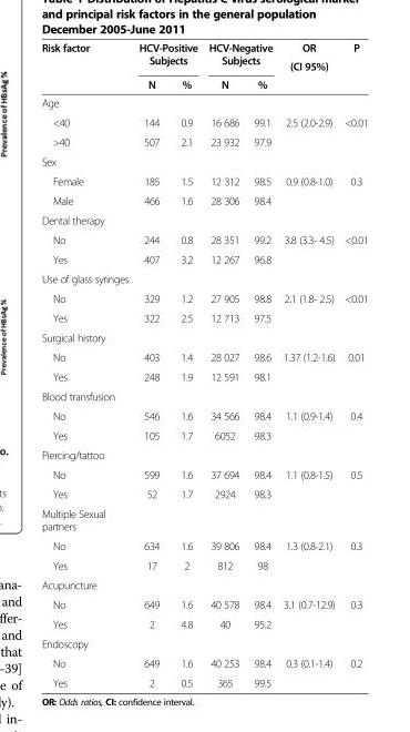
<table><thead><tr><td rowspan="2">Risk factor</td><td colspan="2">HCV-Positive Subjects</td><td colspan="2">HCV-Negative Subjects</td><td rowspan="2">OR (CI 95%)</td><td rowspan="2">P</td></tr><tr><td>N</td><td>%</td><td>N</td><td>%</td></tr></thead><tbody><tr><td colspan="7">Age</td></tr><tr><td>&lt;40</td><td>144</td><td>0.9</td><td>16 686</td><td>99.1</td><td rowspan="2">2.5 (2.0-2.9)</td><td rowspan="2">&lt;0.01</td></tr><tr><td>&gt;40</td><td>507</td><td>2.1</td><td>23 932</td><td>97.9</td></tr><tr><td colspan="7">Sex</td></tr><tr><td>Female</td><td>185</td><td>1.5</td><td>12 312</td><td>98.5</td><td rowspan="2">0.9 (0.8-1.0)</td><td rowspan="2">0.3</td></tr><tr><td>Male</td><td>466</td><td>1.6</td><td>28 306</td><td>98.4</td></tr><tr><td colspan="7">Dental therapy</td></tr><tr><td>No</td><td>244</td><td>0.8</td><td>28 351</td><td>99.2</td><td rowspan="2">3.8 (3.3- 4.5)</td><td rowspan="2">&lt;0.01</td></tr><tr><td>Yes</td><td>407</td><td>3.2</td><td>12 267</td><td>96.8</td></tr><tr><td colspan="7">Use of glass syringes</td></tr><tr><td>No</td><td>329</td><td>1.2</td><td>27 905</td><td>98.8</td><td rowspan="2">2.1 (1.8- 2.5)</td><td rowspan="2">&lt;0.01</td></tr><tr><td>Yes</td><td>322</td><td>2.5</td><td>12 713</td><td>97.5</td></tr><tr><td colspan="7">Surgical history</td></tr><tr><td>No</td><td>403</td><td>1.4</td><td>28 027</td><td>98.6</td><td rowspan="2">1.37 (1.2-1.6)</td><td rowspan="2">0.01</td></tr><tr><td>Yes</td><td>248</td><td>1.9</td><td>12 591</td><td>98.1</td></tr><tr><td colspan="7">Blood transfusion</td></tr><tr><td>No</td><td>546</td><td>1.6</td><td>34 566</td><td>98.4</td><td rowspan="2">1.1 (0.9-1.4)</td><td rowspan="2">0.4</td></tr><tr><td>Yes</td><td>105</td><td>1.7</td><td>6052</td><td>98.3</td></tr><tr><td colspan="7">Piercing/tattoo</td></tr><tr><td>No</td><td>599</td><td>1.6</td><td>37 694</td><td>98.4</td><td rowspan="2">1.1 (0.8-1.5)</td><td rowspan="2">0.5</td></tr><tr><td>Yes</td><td>52</td><td>1.7</td><td>2924</td><td>98.3</td></tr><tr><td colspan="7">Multiple Sexual partners</td></tr><tr><td>No</td><td>634</td><td>1.6</td><td>39 806</td><td>98.4</td><td rowspan="2">1.3 (0.8-2.1)</td><td rowspan="2">0.3</td></tr><tr><td>Yes</td><td>17</td><td>2</td><td>812</td><td>98</td></tr><tr><td colspan="7">Acupuncture</td></tr><tr><td>No</td><td>649</td><td>1.6</td><td>40 578</td><td>98.4</td><td rowspan="2">3.1 (0.7-12.9)</td><td rowspan="2">0.3</td></tr><tr><td>Yes</td><td>2</td><td>4.8</td><td>40</td><td>95.2</td></tr><tr><td colspan="7">Endoscopy</td></tr><tr><td>No</td><td>649</td><td>1.6</td><td>40 253</td><td>98.4</td><td>0.3 (0.1-1.4)</td><td>0.2</td></tr><tr><td>Yes</td><td>2</td><td>0.5</td><td>365</td><td>99.5</td><td></td><td></td></tr></tbody></table>